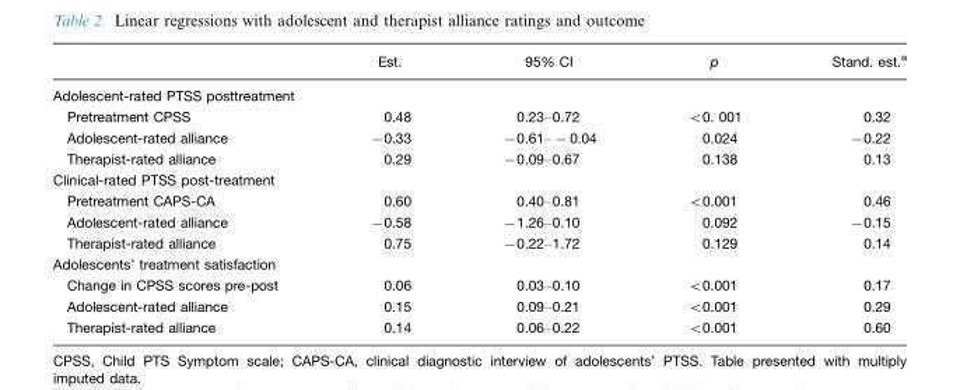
<table><thead><tr><td></td><td>Est.</td><td>95% CI</td><td>p</td><td>Stand. est.<sup>a</sup></td></tr></thead><tbody><tr><td colspan="5">Adolescent-rated PTSS posttreatment</td></tr><tr><td>Pretreatment CPSS</td><td>0.48</td><td>0.23–0.72</td><td>&lt;0. 001</td><td>0.32</td></tr><tr><td>Adolescent-rated alliance</td><td>−0.33</td><td>−0.61−−0.04</td><td>0.024</td><td>−0.22</td></tr><tr><td>Therapist-rated alliance</td><td>0.29</td><td>−0.09–0.67</td><td>0.138</td><td>0.13</td></tr><tr><td colspan="5">Clinical-rated PTSS post-treatment</td></tr><tr><td>Pretreatment CAPS-CA</td><td>0.60</td><td>0.40–0.81</td><td>&lt;0.001</td><td>0.46</td></tr><tr><td>Adolescent-rated alliance</td><td>−0.58</td><td>−1.26–0.10</td><td>0.092</td><td>−0.15</td></tr><tr><td>Therapist-rated alliance</td><td>0.75</td><td>−0.22–1.72</td><td>0.129</td><td>0.14</td></tr><tr><td colspan="5">Adolescents’ treatment satisfaction</td></tr><tr><td>Change in CPSS scores pre-post</td><td>0.06</td><td>0.03–0.10</td><td>&lt;0.001</td><td>0.17</td></tr><tr><td>Adolescent-rated alliance</td><td>0.15</td><td>0.09–0.21</td><td>&lt;0.001</td><td>0.29</td></tr><tr><td>Therapist-rated alliance</td><td>0.14</td><td>0.06–0.22</td><td>&lt;0.001</td><td>0.60</td></tr></tbody></table>